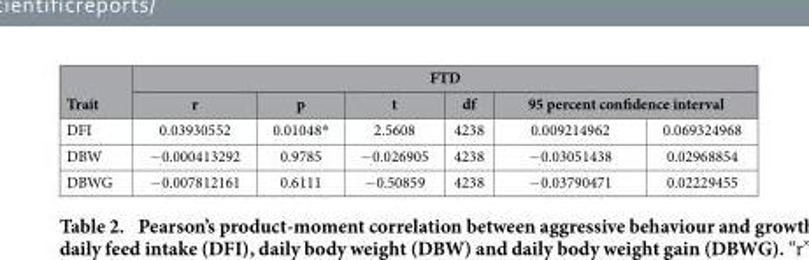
<table><thead><tr><td rowspan="3">Trait DFI</td><td colspan="6">FTD</td></tr><tr><td rowspan="2">r 0.03930552</td><td rowspan="2">p 0.01048*</td><td rowspan="2">t 2.5608</td><td rowspan="2">df 4238</td><td colspan="2">95 percent confidence interval</td></tr><tr><td>0.009214962</td><td>0.069324968</td></tr></thead><tbody><tr><td>DBW</td><td>− 0.000413292</td><td>0.9785</td><td>− 0.026905</td><td>4238</td><td>− 0.03051438</td><td>0.02968854</td></tr><tr><td>DBWG</td><td>− 0.007812161</td><td>0.6111</td><td>− 0.50859</td><td>4238</td><td>− 0.03790471</td><td>0.02229455</td></tr></tbody></table>